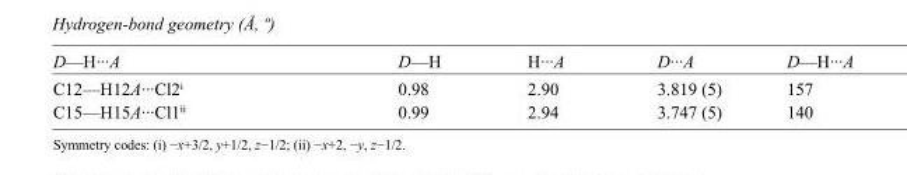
<table><tbody><tr><td>D—H···A</td><td>D—H</td><td>H···A</td><td>D···A</td><td>D—H···A</td></tr><tr><td>C12—H12A···Cl2<sup>i</sup></td><td>0.98</td><td>2.90</td><td>3.819 (5)</td><td>157</td></tr><tr><td>C15—H15A···Cl1<sup>ii</sup></td><td>0.99</td><td>2.94</td><td>3.747 (5)</td><td>140</td></tr></tbody></table>